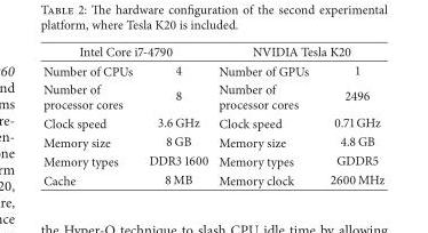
<table><thead><tr><td colspan="2">Intel Core i7-4790</td><td colspan="2">NVIDIA Tesla K20</td></tr><tr><td>Number of CPUs</td><td>4</td><td>Number of GPUs</td><td>1</td></tr></thead><tbody><tr><td>Number of processor cores</td><td>8</td><td>Number of processor cores</td><td>2496</td></tr><tr><td>Clock speed</td><td>3.6 GHz</td><td>Clock speed</td><td>0.71 GHz</td></tr><tr><td>Memory size</td><td>8 GB</td><td>Memory size</td><td>4.8 GB</td></tr><tr><td>Memory types</td><td>DDR3 1600</td><td>Memory types</td><td>GDDR5</td></tr><tr><td>Cache</td><td>8 MB</td><td>Memory clock</td><td>2600 MHz</td></tr></tbody></table>